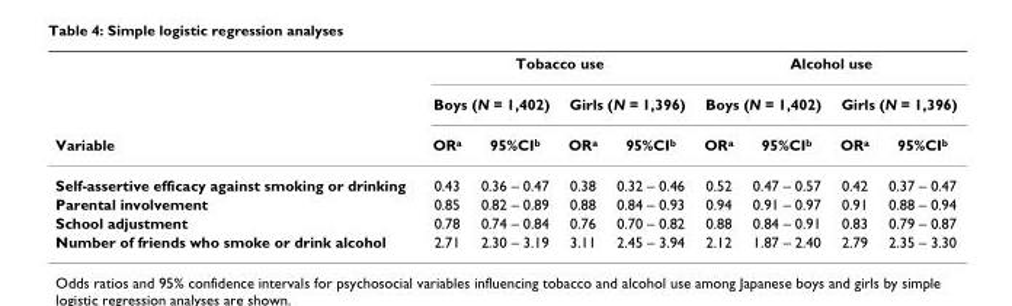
<table><thead><tr><td rowspan="3">Variable</td><td colspan="4">Tobacco use</td><td colspan="4">Alcohol use</td></tr><tr><td colspan="2">Boys (N = 1,402)</td><td colspan="2">Girls (N = 1,396)</td><td colspan="2">Boys (N = 1,402)</td><td colspan="2">Girls (N = 1,396)</td></tr><tr><td>OR<sup>a</sup></td><td>95%CI<sup>b</sup></td><td>OR<sup>a</sup></td><td>95%CI<sup>b</sup></td><td>OR<sup>a</sup></td><td>95%CI<sup>b</sup></td><td>OR<sup>a</sup></td><td>95%CI<sup>b</sup></td></tr></thead><tbody><tr><td>Self-assertive efficacy against smoking or drinking</td><td>0.43</td><td>0.36 – 0.47</td><td>0.38</td><td>0.32 – 0.46</td><td>0.52</td><td>0.47 – 0.57</td><td>0.42</td><td>0.37 – 0.47</td></tr><tr><td>Parental involvement</td><td>0.85</td><td>0.82 – 0.89</td><td>0.88</td><td>0.84 – 0.93</td><td>0.94</td><td>0.91 – 0.97</td><td>0.91</td><td>0.88 – 0.94</td></tr><tr><td>School adjustment</td><td>0.78</td><td>0.74 – 0.84</td><td>0.76</td><td>0.70 – 0.82</td><td>0.88</td><td>0.84 – 0.91</td><td>0.83</td><td>0.79 – 0.87</td></tr><tr><td>Number of friends who smoke or drink alcohol</td><td>2.71</td><td>2.30 – 3.19</td><td>3.11</td><td>2.45 – 3.94</td><td>2.12</td><td>1.87 – 2.40</td><td>2.79</td><td>2.35 – 3.30</td></tr></tbody></table>